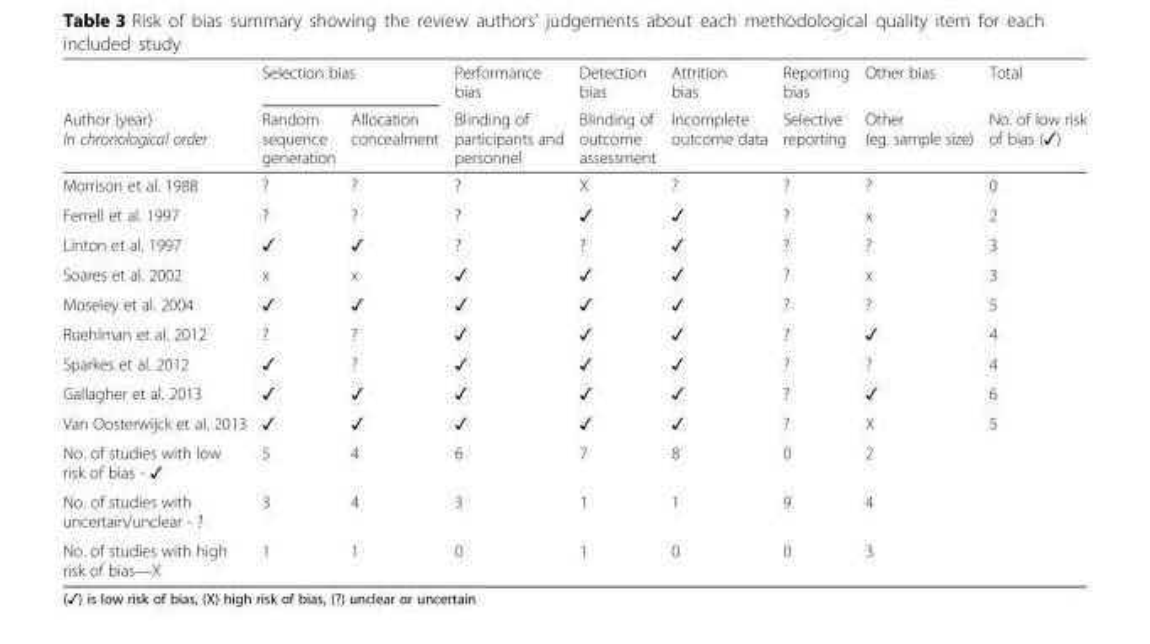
<table><thead><tr><td rowspan="2">Author (year) In chronological order</td><td colspan="2">Selection bias</td><td rowspan="2">Performance bias Blinding of participants and personnel</td><td rowspan="2">Detection bias Blinding of outcome assessment</td><td rowspan="2">Attrition bias Incomplete outcome data</td><td rowspan="2">Reporting bias Selective reporting</td><td rowspan="2">Other bias Other (eg. sample size)</td><td rowspan="2">Total No. of low risk of bias (✓)</td></tr><tr><td>Random sequence generation</td><td>Allocation concealment</td></tr></thead><tbody><tr><td>Morrison et al. 1988</td><td>?</td><td>?</td><td>?</td><td>X</td><td>?</td><td>?</td><td>?</td><td>0</td></tr><tr><td>Ferrell et al. 1997</td><td>?</td><td>?</td><td>?</td><td>✓</td><td>✓</td><td>?</td><td>x</td><td>2</td></tr><tr><td>Linton et al. 1997</td><td>✓</td><td>✓</td><td>?</td><td>?</td><td>✓</td><td>?</td><td>?</td><td>3</td></tr><tr><td>Soares et al. 2002</td><td>x</td><td>x</td><td>✓</td><td>✓</td><td>✓</td><td>?</td><td>x</td><td>3</td></tr><tr><td>Moseley et al. 2004</td><td>✓</td><td>✓</td><td>✓</td><td>✓</td><td>✓</td><td>?</td><td>?</td><td>5</td></tr><tr><td>Ruehlman et al. 2012</td><td>?</td><td>?</td><td>✓</td><td>✓</td><td>✓</td><td>?</td><td>✓</td><td>4</td></tr><tr><td>Sparkes et al. 2012</td><td>✓</td><td>?</td><td>✓</td><td>✓</td><td>✓</td><td>?</td><td>?</td><td>4</td></tr><tr><td>Gallagher et al. 2013</td><td>✓</td><td>✓</td><td>✓</td><td>✓</td><td>✓</td><td>?</td><td>✓</td><td>6</td></tr><tr><td>Van Oosterwijck et al. 2013</td><td>✓</td><td>✓</td><td>✓</td><td>✓</td><td>✓</td><td>?</td><td>X</td><td>5</td></tr><tr><td>No. of studies with low risk of bias - ✓</td><td>5</td><td>4</td><td>6</td><td>7</td><td>8</td><td>0</td><td>2</td><td></td></tr><tr><td>No. of studies with uncertain/unclear - ?</td><td>3</td><td>4</td><td>3</td><td>1</td><td>1</td><td>9</td><td>4</td><td></td></tr><tr><td>No. of studies with high risk of bias—X</td><td>1</td><td>1</td><td>0</td><td>1</td><td>0</td><td>0</td><td>3</td><td></td></tr></tbody></table>